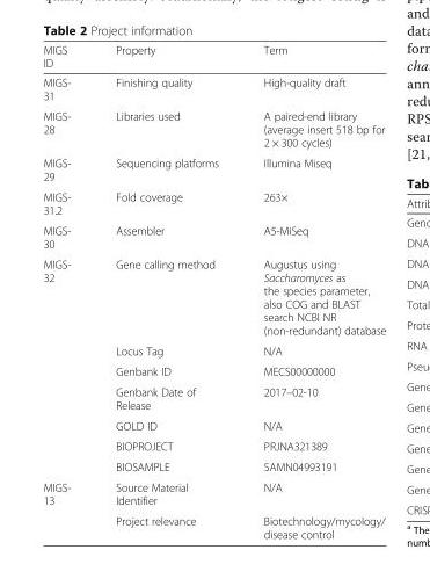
<table><thead><tr><td>MIGS ID</td><td>Property</td><td>Term</td></tr></thead><tbody><tr><td>MIGS- 31</td><td>Finishing quality</td><td>High-quality draft</td></tr><tr><td>MIGS- 28</td><td>Libraries used</td><td>A paired-end library (average insert 518 bp for 2 × 300 cycles)</td></tr><tr><td>MIGS- 29</td><td>Sequencing platforms</td><td>Illumina Miseq</td></tr><tr><td>MIGS- 31.2</td><td>Fold coverage</td><td>263×</td></tr><tr><td>MIGS- 30</td><td>Assembler</td><td>A5-MiSeq</td></tr><tr><td rowspan="7">MIGS- 32</td><td>Gene calling method</td><td>Augustus using Saccharomyces as the species parameter, also COG and BLAST search NCBI NR (non-redundant) database</td></tr><tr><td>Locus Tag</td><td>N/A</td></tr><tr><td>Genbank ID</td><td>MECS00000000</td></tr><tr><td>Genbank Date of Release</td><td>2017–02-10</td></tr><tr><td>GOLD ID</td><td>N/A</td></tr><tr><td>BIOPROJECT</td><td>PRJNA321389</td></tr><tr><td>BIOSAMPLE</td><td>SAMN04993191</td></tr><tr><td rowspan="2">MIGS- 13</td><td>Source Material Identifier</td><td>N/A</td></tr><tr><td>Project relevance</td><td>Biotechnology/mycology/ disease control</td></tr></tbody></table>